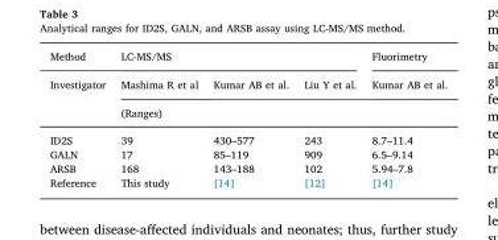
<table><thead><tr><td rowspan="3">Method Investigator</td><td colspan="3">LC-MS/MS</td><td rowspan="2">Fluorimetry Kumar AB et al.</td></tr><tr><td>Mashima R et al</td><td>Kumar AB et al.</td><td>Liu Y et al.</td></tr><tr><td colspan="4">(Ranges)</td></tr></thead><tbody><tr><td>ID2S</td><td>39</td><td>430–577</td><td>243</td><td>8.7–11.4</td></tr><tr><td>GALN</td><td>17</td><td>85–119</td><td>909</td><td>6.5–9.14</td></tr><tr><td>ARSB</td><td>168</td><td>143–188</td><td>102</td><td>5.94–7.8</td></tr><tr><td>Reference</td><td>This study</td><td>[14]</td><td>[12]</td><td>[14]</td></tr></tbody></table>